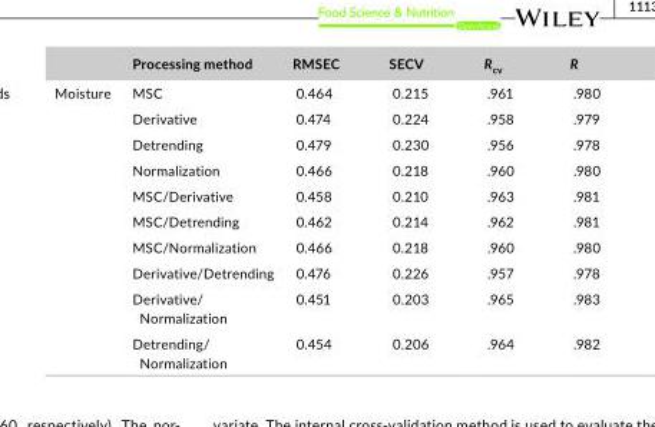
<table><thead><tr><td></td><td>Processing method</td><td>RMSEC</td><td>SECV</td><td>R<sub>cv</sub></td><td>R</td></tr></thead><tbody><tr><td rowspan="10">Moisture</td><td>MSC</td><td>0.464</td><td>0.215</td><td>.961</td><td>.980</td></tr><tr><td>Derivative</td><td>0.474</td><td>0.224</td><td>.958</td><td>.979</td></tr><tr><td>Detrending</td><td>0.479</td><td>0.230</td><td>.956</td><td>.978</td></tr><tr><td>Normalization</td><td>0.466</td><td>0.218</td><td>.960</td><td>.980</td></tr><tr><td>MSC/Derivative</td><td>0.458</td><td>0.210</td><td>.963</td><td>.981</td></tr><tr><td>MSC/Detrending</td><td>0.462</td><td>0.214</td><td>.962</td><td>.981</td></tr><tr><td>MSC/Normalization</td><td>0.466</td><td>0.218</td><td>.960</td><td>.980</td></tr><tr><td>Derivative/Detrending</td><td>0.476</td><td>0.226</td><td>.957</td><td>.978</td></tr><tr><td>Derivative/ Normalization</td><td>0.451</td><td>0.203</td><td>.965</td><td>.983</td></tr><tr><td>Detrending/ Normalization</td><td>0.454</td><td>0.206</td><td>.964</td><td>.982</td></tr></tbody></table>